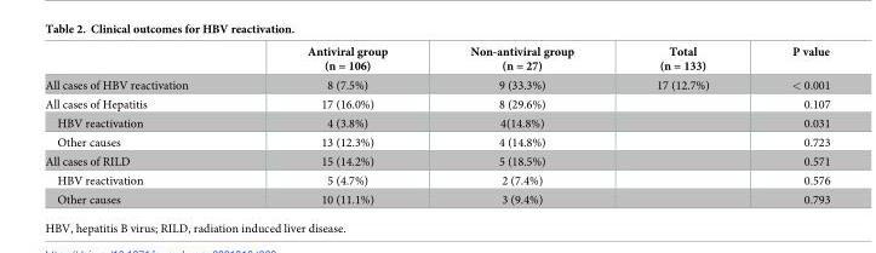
<table><thead><tr><td></td><td>Antiviral group (n = 106)</td><td>Non-antiviral group (n = 27)</td><td>Total (n = 133)</td><td>P value</td></tr></thead><tbody><tr><td>All cases of HBV reactivation</td><td>8 (7.5%)</td><td>9 (33.3%)</td><td>17 (12.7%)</td><td>&lt; 0.001</td></tr><tr><td>All cases of Hepatitis</td><td>17 (16.0%)</td><td>8 (29.6%)</td><td></td><td>0.107</td></tr><tr><td>HBV reactivation</td><td>4 (3.8%)</td><td>4(14.8%)</td><td></td><td>0.031</td></tr><tr><td>Other causes</td><td>13 (12.3%)</td><td>4 (14.8%)</td><td></td><td>0.723</td></tr><tr><td>All cases of RILD</td><td>15 (14.2%)</td><td>5 (18.5%)</td><td></td><td>0.571</td></tr><tr><td>HBV reactivation</td><td>5 (4.7%)</td><td>2 (7.4%)</td><td></td><td>0.576</td></tr><tr><td>Other causes</td><td>10 (11.1%)</td><td>3 (9.4%)</td><td></td><td>0.793</td></tr></tbody></table>